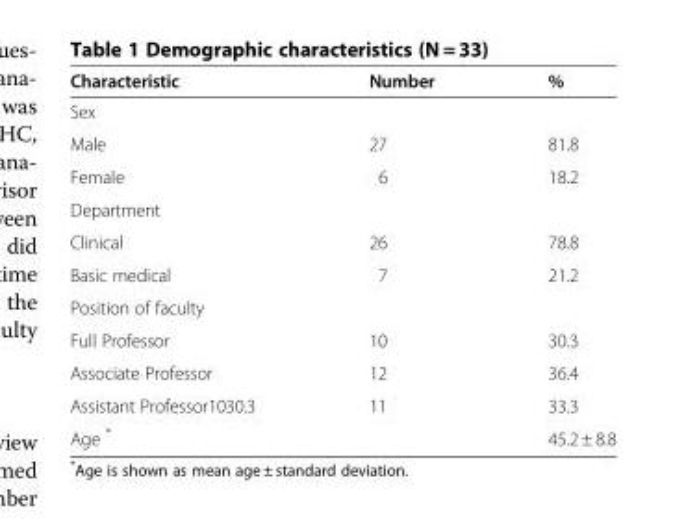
<table><thead><tr><td>Characteristic</td><td>Number</td><td>%</td></tr></thead><tbody><tr><td colspan="3">Sex</td></tr><tr><td>Male</td><td>27</td><td>81.8</td></tr><tr><td>Female</td><td>6</td><td>18.2</td></tr><tr><td colspan="3">Department</td></tr><tr><td>Clinical</td><td>26</td><td>78.8</td></tr><tr><td>Basic medical</td><td>7</td><td>21.2</td></tr><tr><td colspan="3">Position of faculty</td></tr><tr><td>Full Professor</td><td>10</td><td>30.3</td></tr><tr><td>Associate Professor</td><td>12</td><td>36.4</td></tr><tr><td>Assistant Professor1030.3</td><td>11</td><td>33.3</td></tr><tr><td>Age *</td><td></td><td>45.2 ± 8.8</td></tr></tbody></table>